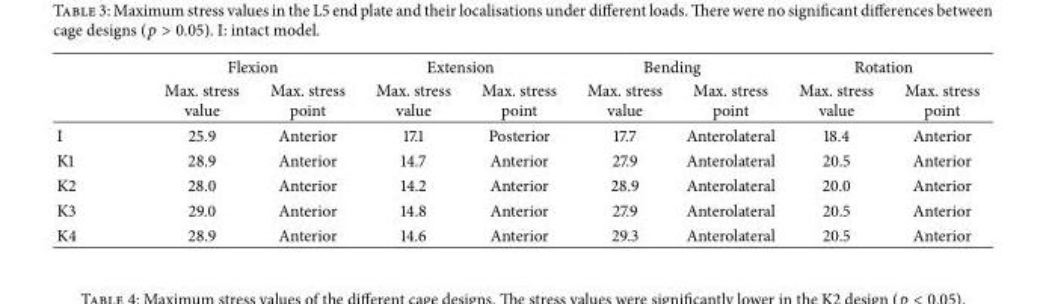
<table><thead><tr><td rowspan="2"></td><td colspan="2">Flexion</td><td colspan="2">Extension</td><td colspan="2">Bending</td><td colspan="2">Rotation</td></tr><tr><td>Max. stress value</td><td>Max. stress point</td><td>Max. stress value</td><td>Max. stress point</td><td>Max. stress value</td><td>Max. stress point</td><td>Max. stress value</td><td>Max. stress point</td></tr></thead><tbody><tr><td>I</td><td>25.9</td><td>Anterior</td><td>17.1</td><td>Posterior</td><td>17.7</td><td>Anterolateral</td><td>18.4</td><td>Anterior</td></tr><tr><td>K1</td><td>28.9</td><td>Anterior</td><td>14.7</td><td>Anterior</td><td>27.9</td><td>Anterolateral</td><td>20.5</td><td>Anterior</td></tr><tr><td>K2</td><td>28.0</td><td>Anterior</td><td>14.2</td><td>Anterior</td><td>28.9</td><td>Anterolateral</td><td>20.0</td><td>Anterior</td></tr><tr><td>K3</td><td>29.0</td><td>Anterior</td><td>14.8</td><td>Anterior</td><td>27.9</td><td>Anterolateral</td><td>20.5</td><td>Anterior</td></tr><tr><td>K4</td><td>28.9</td><td>Anterior</td><td>14.6</td><td>Anterior</td><td>29.3</td><td>Anterolateral</td><td>20.5</td><td>Anterior</td></tr></tbody></table>